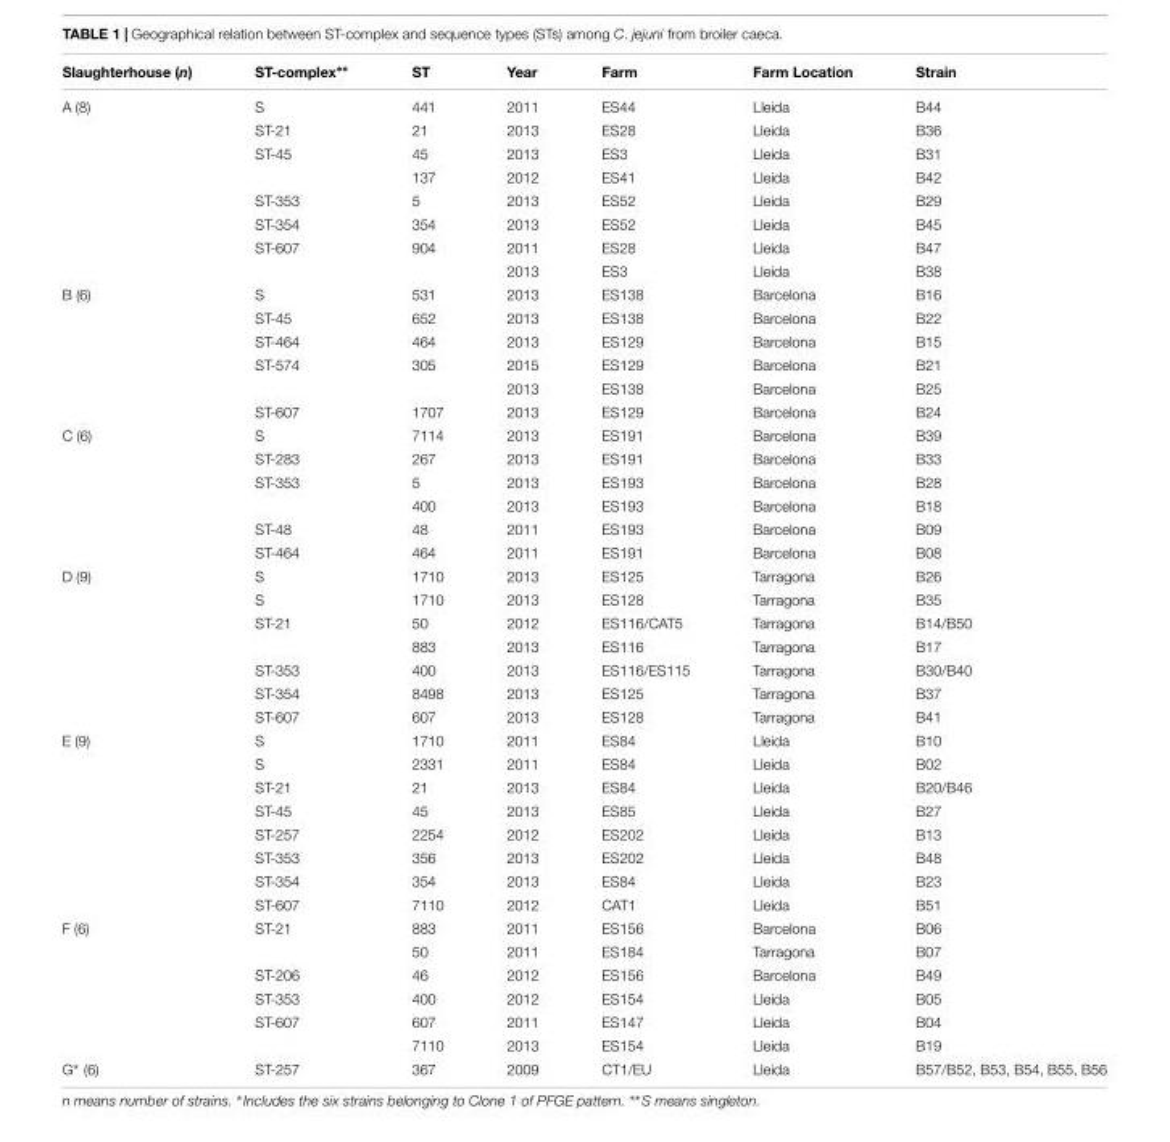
<table><thead><tr><td>Slaughterhouse (n)</td><td>ST-complex∗∗</td><td>ST</td><td>Year</td><td>Farm</td><td>Farm Location</td><td>Strain</td></tr></thead><tbody><tr><td rowspan="8">A (8)</td><td>S</td><td>441</td><td>2011</td><td>ES44</td><td>Lleida</td><td>B44</td></tr><tr><td>ST-21</td><td>21</td><td>2013</td><td>ES28</td><td>Lleida</td><td>B36</td></tr><tr><td>ST-45</td><td>45</td><td>2013</td><td>ES3</td><td>Lleida</td><td>B31</td></tr><tr><td></td><td>137</td><td>2012</td><td>ES41</td><td>Lleida</td><td>B42</td></tr><tr><td>ST-353</td><td>5</td><td>2013</td><td>ES52</td><td>Lleida</td><td>B29</td></tr><tr><td>ST-354</td><td>354</td><td>2013</td><td>ES52</td><td>Lleida</td><td>B45</td></tr><tr><td>ST-607</td><td>904</td><td>2011</td><td>ES28</td><td>Lleida</td><td>B47</td></tr><tr><td></td><td></td><td>2013</td><td>ES3</td><td>Lleida</td><td>B38</td></tr><tr><td rowspan="6">B (6)</td><td>S</td><td>531</td><td>2013</td><td>ES138</td><td>Barcelona</td><td>B16</td></tr><tr><td>ST-45</td><td>652</td><td>2013</td><td>ES138</td><td>Barcelona</td><td>B22</td></tr><tr><td>ST-464</td><td>464</td><td>2013</td><td>ES129</td><td>Barcelona</td><td>B15</td></tr><tr><td>ST-574</td><td>305</td><td>2015</td><td>ES129</td><td>Barcelona</td><td>B21</td></tr><tr><td></td><td></td><td>2013</td><td>ES138</td><td>Barcelona</td><td>B25</td></tr><tr><td>ST-607</td><td>1707</td><td>2013</td><td>ES129</td><td>Barcelona</td><td>B24</td></tr><tr><td rowspan="6">C (6)</td><td>S</td><td>7114</td><td>2013</td><td>ES191</td><td>Barcelona</td><td>B39</td></tr><tr><td>ST-283</td><td>267</td><td>2013</td><td>ES191</td><td>Barcelona</td><td>B33</td></tr><tr><td>ST-353</td><td>5</td><td>2013</td><td>ES193</td><td>Barcelona</td><td>B28</td></tr><tr><td></td><td>400</td><td>2013</td><td>ES193</td><td>Barcelona</td><td>B18</td></tr><tr><td>ST-48</td><td>48</td><td>2011</td><td>ES193</td><td>Barcelona</td><td>B09</td></tr><tr><td>ST-464</td><td>464</td><td>2011</td><td>ES191</td><td>Barcelona</td><td>B08</td></tr><tr><td rowspan="7">D (9)</td><td>S</td><td>1710</td><td>2013</td><td>ES125</td><td>Tarragona</td><td>B26</td></tr><tr><td>S</td><td>1710</td><td>2013</td><td>ES128</td><td>Tarragona</td><td>B35</td></tr><tr><td>ST-21</td><td>50</td><td>2012</td><td>ES116/CAT5</td><td>Tarragona</td><td>B14/B50</td></tr><tr><td></td><td>883</td><td>2013</td><td>ES116</td><td>Tarragona</td><td>B17</td></tr><tr><td>ST-353</td><td>400</td><td>2013</td><td>ES116/ES115</td><td>Tarragona</td><td>B30/B40</td></tr><tr><td>ST-354</td><td>8498</td><td>2013</td><td>ES125</td><td>Tarragona</td><td>B37</td></tr><tr><td>ST-607</td><td>607</td><td>2013</td><td>ES128</td><td>Tarragona</td><td>B41</td></tr><tr><td rowspan="8">E (9)</td><td>S</td><td>1710</td><td>2011</td><td>ES84</td><td>Lleida</td><td>B10</td></tr><tr><td>S</td><td>2331</td><td>2011</td><td>ES84</td><td>Lleida</td><td>B02</td></tr><tr><td>ST-21</td><td>21</td><td>2013</td><td>ES84</td><td>Lleida</td><td>B20/B46</td></tr><tr><td>ST-45</td><td>45</td><td>2013</td><td>ES85</td><td>Lleida</td><td>B27</td></tr><tr><td>ST-257</td><td>2254</td><td>2012</td><td>ES202</td><td>Lleida</td><td>B13</td></tr><tr><td>ST-353</td><td>356</td><td>2013</td><td>ES202</td><td>Lleida</td><td>B48</td></tr><tr><td>ST-354</td><td>354</td><td>2013</td><td>ES84</td><td>Lleida</td><td>B23</td></tr><tr><td>ST-607</td><td>7110</td><td>2012</td><td>CAT1</td><td>Lleida</td><td>B51</td></tr><tr><td rowspan="6">F (6)</td><td>ST-21</td><td>883</td><td>2011</td><td>ES156</td><td>Barcelona</td><td>B06</td></tr><tr><td></td><td>50</td><td>2011</td><td>ES184</td><td>Tarragona</td><td>B07</td></tr><tr><td>ST-206</td><td>46</td><td>2012</td><td>ES156</td><td>Barcelona</td><td>B49</td></tr><tr><td>ST-353</td><td>400</td><td>2012</td><td>ES154</td><td>Lleida</td><td>B05</td></tr><tr><td>ST-607</td><td>607</td><td>2011</td><td>ES147</td><td>Lleida</td><td>B04</td></tr><tr><td></td><td>7110</td><td>2013</td><td>ES154</td><td>Lleida</td><td>B19</td></tr><tr><td>G∗ (6)</td><td>ST-257</td><td>367</td><td>2009</td><td>CT1/EU</td><td>Lleida</td><td>B57/B52, B53, B54, B55, B56</td></tr></tbody></table>